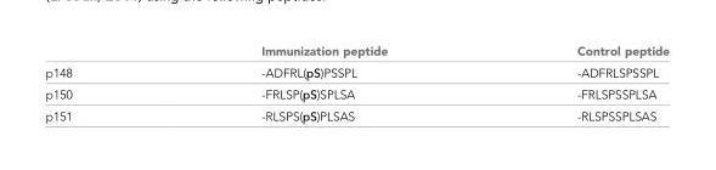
<table><thead><tr><td></td><td>Immunization peptide</td><td>Control peptide</td></tr></thead><tbody><tr><td>p148</td><td>-ADFRL(pS)PSSPL</td><td>-ADFRLSPSSPL</td></tr><tr><td>p150</td><td>-FRLSP(pS)SPLSA</td><td>-FRLSPSSPLSA</td></tr><tr><td>p151</td><td>-RLSPS(pS)PLSAS</td><td>-RLSPSSPLSAS</td></tr></tbody></table>